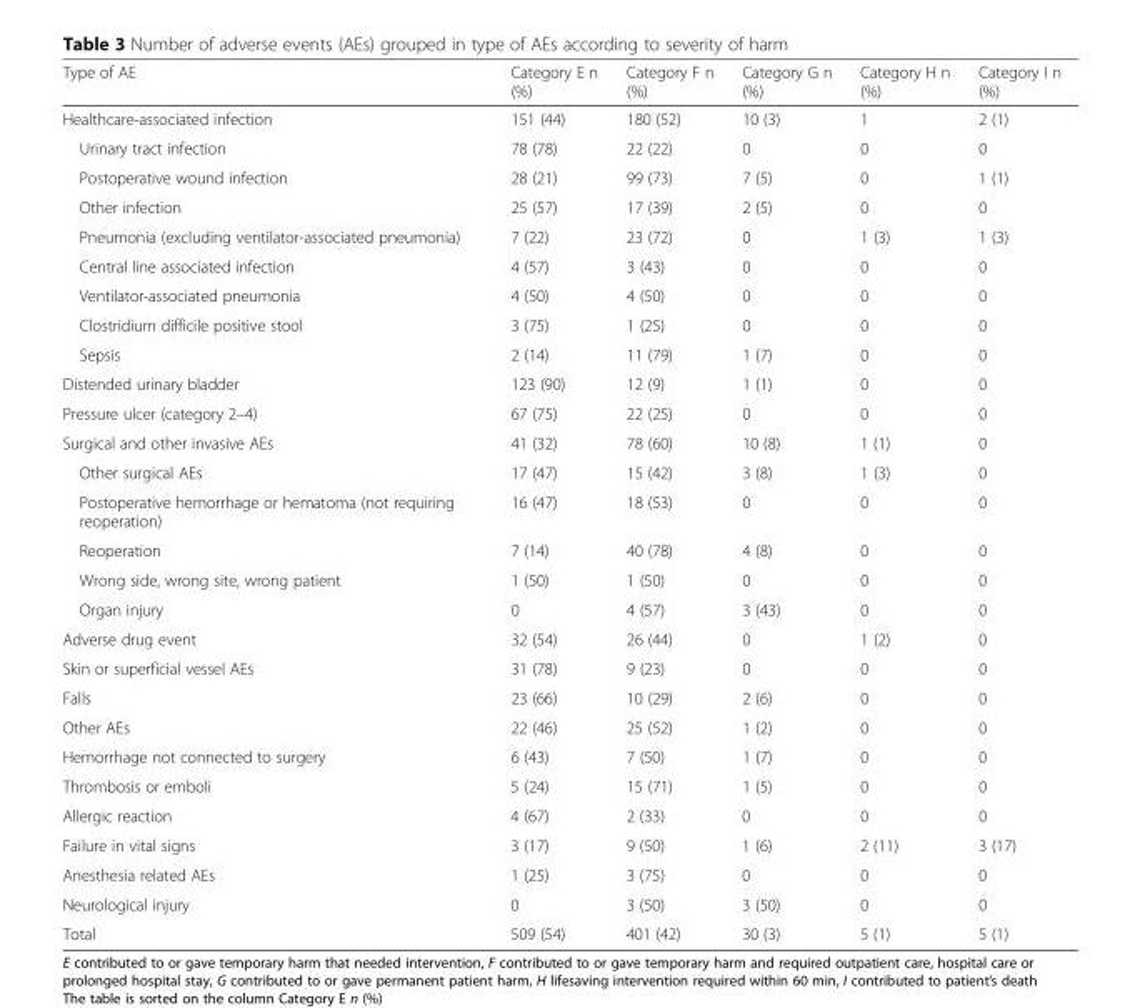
<table><thead><tr><td>Type of AE</td><td>Category E n (%)</td><td>Category F n (%)</td><td>Category G n (%)</td><td>Category H n (%)</td><td>Category I n (%)</td></tr></thead><tbody><tr><td>Healthcare-associated infection</td><td>151 (44)</td><td>180 (52)</td><td>10 (3)</td><td>1</td><td>2 (1)</td></tr><tr><td>Urinary tract infection</td><td>78 (78)</td><td>22 (22)</td><td>0</td><td>0</td><td>0</td></tr><tr><td>Postoperative wound infection</td><td>28 (21)</td><td>99 (73)</td><td>7 (5)</td><td>0</td><td>1 (1)</td></tr><tr><td>Other infection</td><td>25 (57)</td><td>17 (39)</td><td>2 (5)</td><td>0</td><td>0</td></tr><tr><td>Pneumonia (excluding ventilator-associated pneumonia)</td><td>7 (22)</td><td>23 (72)</td><td>0</td><td>1 (3)</td><td>1 (3)</td></tr><tr><td>Central line associated infection</td><td>4 (57)</td><td>3 (43)</td><td>0</td><td>0</td><td>0</td></tr><tr><td>Ventilator-associated pneumonia</td><td>4 (50)</td><td>4 (50)</td><td>0</td><td>0</td><td>0</td></tr><tr><td>Clostridium difficile positive stool</td><td>3 (75)</td><td>1 (25)</td><td>0</td><td>0</td><td>0</td></tr><tr><td>Sepsis</td><td>2 (14)</td><td>11 (79)</td><td>1 (7)</td><td>0</td><td>0</td></tr><tr><td>Distended urinary bladder</td><td>123 (90)</td><td>12 (9)</td><td>1 (1)</td><td>0</td><td>0</td></tr><tr><td>Pressure ulcer (category 2–4)</td><td>67 (75)</td><td>22 (25)</td><td>0</td><td>0</td><td>0</td></tr><tr><td>Surgical and other invasive AEs</td><td>41 (32)</td><td>78 (60)</td><td>10 (8)</td><td>1 (1)</td><td>0</td></tr><tr><td>Other surgical AEs</td><td>17 (47)</td><td>15 (42)</td><td>3 (8)</td><td>1 (3)</td><td>0</td></tr><tr><td>Postoperative hemorrhage or hematoma (not requiring reoperation)</td><td>16 (47)</td><td>18 (53)</td><td>0</td><td>0</td><td>0</td></tr><tr><td>Reoperation</td><td>7 (14)</td><td>40 (78)</td><td>4 (8)</td><td>0</td><td>0</td></tr><tr><td>Wrong side, wrong site, wrong patient</td><td>1 (50)</td><td>1 (50)</td><td>0</td><td>0</td><td>0</td></tr><tr><td>Organ injury</td><td>0</td><td>4 (57)</td><td>3 (43)</td><td>0</td><td>0</td></tr><tr><td>Adverse drug event</td><td>32 (54)</td><td>26 (44)</td><td>0</td><td>1 (2)</td><td>0</td></tr><tr><td>Skin or superficial vessel AEs</td><td>31 (78)</td><td>9 (23)</td><td>0</td><td>0</td><td>0</td></tr><tr><td>Falls</td><td>23 (66)</td><td>10 (29)</td><td>2 (6)</td><td>0</td><td>0</td></tr><tr><td>Other AEs</td><td>22 (46)</td><td>25 (52)</td><td>1 (2)</td><td>0</td><td>0</td></tr><tr><td>Hemorrhage not connected to surgery</td><td>6 (43)</td><td>7 (50)</td><td>1 (7)</td><td>0</td><td>0</td></tr><tr><td>Thrombosis or emboli</td><td>5 (24)</td><td>15 (71)</td><td>1 (5)</td><td>0</td><td>0</td></tr><tr><td>Allergic reaction</td><td>4 (67)</td><td>2 (33)</td><td>0</td><td>0</td><td>0</td></tr><tr><td>Failure in vital signs</td><td>3 (17)</td><td>9 (50)</td><td>1 (6)</td><td>2 (11)</td><td>3 (17)</td></tr><tr><td>Anesthesia related AEs</td><td>1 (25)</td><td>3 (75)</td><td>0</td><td>0</td><td>0</td></tr><tr><td>Neurological injury</td><td>0</td><td>3 (50)</td><td>3 (50)</td><td>0</td><td>0</td></tr><tr><td>Total</td><td>509 (54)</td><td>401 (42)</td><td>30 (3)</td><td>5 (1)</td><td>5 (1)</td></tr></tbody></table>